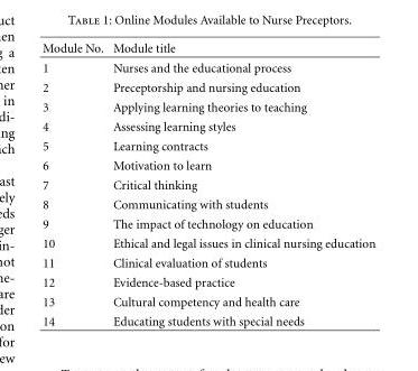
<table><thead><tr><td>Module No.</td><td>Module title</td></tr></thead><tbody><tr><td>1</td><td>Nurses and the educational process</td></tr><tr><td>2</td><td>Preceptorship and nursing education</td></tr><tr><td>3</td><td>Applying learning theories to teaching</td></tr><tr><td>4</td><td>Assessing learning styles</td></tr><tr><td>5</td><td>Learning contracts</td></tr><tr><td>6</td><td>Motivation to learn</td></tr><tr><td>7</td><td>Critical thinking</td></tr><tr><td>8</td><td>Communicating with students</td></tr><tr><td>9</td><td>The impact of technology on education</td></tr><tr><td>10</td><td>Ethical and legal issues in clinical nursing education</td></tr><tr><td>11</td><td>Clinical evaluation of students</td></tr><tr><td>12</td><td>Evidence-based practice</td></tr><tr><td>13</td><td>Cultural competency and health care</td></tr><tr><td>14</td><td>Educating students with special needs</td></tr></tbody></table>